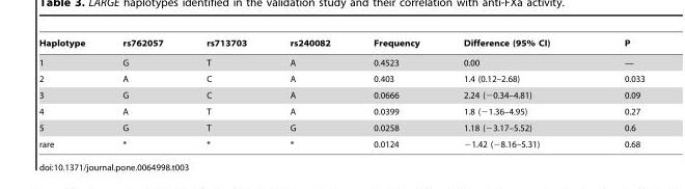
<table><thead><tr><td>Haplotype</td><td>rs762057</td><td>rs713703</td><td>rs240082</td><td>Frequency</td><td>Difference (95% CI)</td><td>P</td></tr></thead><tbody><tr><td>1</td><td>G</td><td>T</td><td>A</td><td>0.4523</td><td>0.00</td><td>—</td></tr><tr><td>2</td><td>A</td><td>C</td><td>A</td><td>0.403</td><td>1.4 (0.12–2.68)</td><td>0.033</td></tr><tr><td>3</td><td>G</td><td>C</td><td>A</td><td>0.0666</td><td>2.24 (−0.34–4.81)</td><td>0.09</td></tr><tr><td>4</td><td>A</td><td>T</td><td>A</td><td>0.0399</td><td>1.8 (−1.36–4.95)</td><td>0.27</td></tr><tr><td>5</td><td>G</td><td>T</td><td>G</td><td>0.0258</td><td>1.18 (−3.17–5.52)</td><td>0.6</td></tr><tr><td>rare</td><td>*</td><td>*</td><td>*</td><td>0.0124</td><td>−1.42 (−8.16–5.31)</td><td>0.68</td></tr></tbody></table>